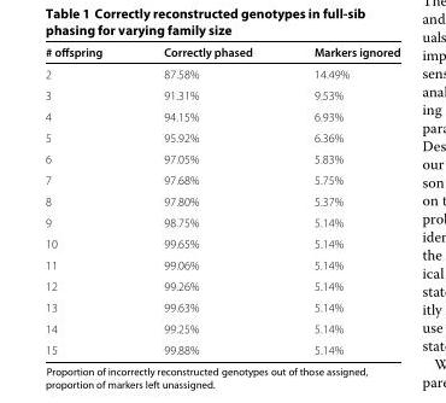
<table><thead><tr><td># offspring</td><td>Correctly phased</td><td>Markers ignored</td></tr></thead><tbody><tr><td>2</td><td>87.58%</td><td>14.49%</td></tr><tr><td>3</td><td>91.31%</td><td>9.53%</td></tr><tr><td>4</td><td>94.15%</td><td>6.93%</td></tr><tr><td>5</td><td>95.92%</td><td>6.36%</td></tr><tr><td>6</td><td>97.05%</td><td>5.83%</td></tr><tr><td>7</td><td>97.68%</td><td>5.75%</td></tr><tr><td>8</td><td>97.80%</td><td>5.37%</td></tr><tr><td>9</td><td>98.75%</td><td>5.14%</td></tr><tr><td>10</td><td>99.65%</td><td>5.14%</td></tr><tr><td>11</td><td>99.06%</td><td>5.14%</td></tr><tr><td>12</td><td>99.26%</td><td>5.14%</td></tr><tr><td>13</td><td>99.63%</td><td>5.14%</td></tr><tr><td>14</td><td>99.25%</td><td>5.14%</td></tr><tr><td>15</td><td>99.88%</td><td>5.14%</td></tr></tbody></table>